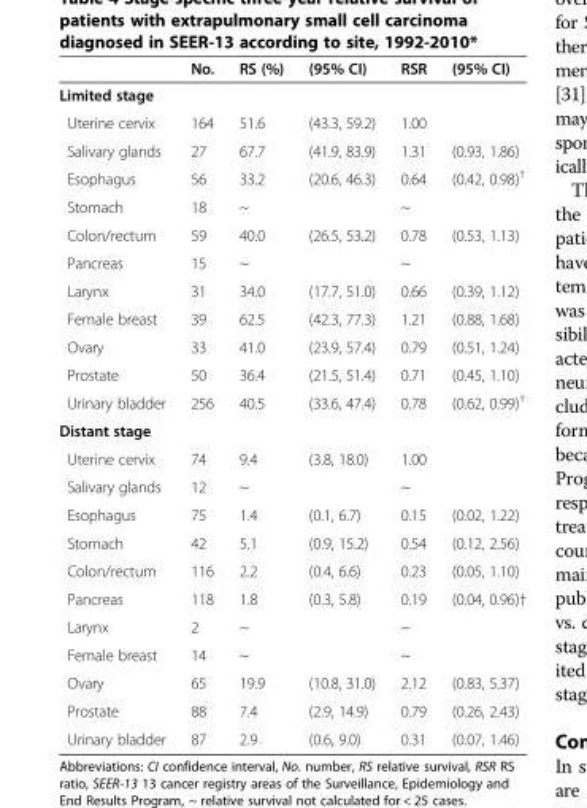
<table><thead><tr><td></td><td>No.</td><td>RS (%)</td><td>(95% CI)</td><td>RSR</td><td>(95% CI)</td></tr></thead><tbody><tr><td colspan="6">Limited stage</td></tr><tr><td>Uterine cervix</td><td>164</td><td>51.6</td><td>(43.3, 59.2)</td><td>1.00</td><td></td></tr><tr><td>Salivary glands</td><td>27</td><td>67.7</td><td>(41.9, 83.9)</td><td>1.31</td><td>(0.93, 1.86)</td></tr><tr><td>Esophagus</td><td>56</td><td>33.2</td><td>(20.6, 46.3)</td><td>0.64</td><td>(0.42, 0.98)<sup>†</sup></td></tr><tr><td>Stomach</td><td>18</td><td>~</td><td></td><td>~</td><td></td></tr><tr><td>Colon/rectum</td><td>59</td><td>40.0</td><td>(26.5, 53.2)</td><td>0.78</td><td>(0.53, 1.13)</td></tr><tr><td>Pancreas</td><td>15</td><td>~</td><td></td><td>~</td><td></td></tr><tr><td>Larynx</td><td>31</td><td>34.0</td><td>(17.7, 51.0)</td><td>0.66</td><td>(0.39, 1.12)</td></tr><tr><td>Female breast</td><td>39</td><td>62.5</td><td>(42.3, 77.3)</td><td>1.21</td><td>(0.88, 1.68)</td></tr><tr><td>Ovary</td><td>33</td><td>41.0</td><td>(23.9, 57.4)</td><td>0.79</td><td>(0.51, 1.24)</td></tr><tr><td>Prostate</td><td>50</td><td>36.4</td><td>(21.5, 51.4)</td><td>0.71</td><td>(0.45, 1.10)</td></tr><tr><td>Urinary bladder</td><td>256</td><td>40.5</td><td>(33.6, 47.4)</td><td>0.78</td><td>(0.62, 0.99)<sup>†</sup></td></tr><tr><td colspan="6">Distant stage</td></tr><tr><td>Uterine cervix</td><td>74</td><td>9.4</td><td>(3.8, 18.0)</td><td>1.00</td><td></td></tr><tr><td>Salivary glands</td><td>12</td><td>~</td><td></td><td>~</td><td></td></tr><tr><td>Esophagus</td><td>75</td><td>1.4</td><td>(0.1, 6.7)</td><td>0.15</td><td>(0.02, 1.22)</td></tr><tr><td>Stomach</td><td>42</td><td>5.1</td><td>(0.9, 15.2)</td><td>0.54</td><td>(0.12, 2.56)</td></tr><tr><td>Colon/rectum</td><td>116</td><td>2.2</td><td>(0.4, 6.6)</td><td>0.23</td><td>(0.05, 1.10)</td></tr><tr><td>Pancreas</td><td>118</td><td>1.8</td><td>(0.3, 5.8)</td><td>0.19</td><td>(0.04, 0.96)†</td></tr><tr><td>Larynx</td><td>2</td><td>~</td><td></td><td>~</td><td></td></tr><tr><td>Female breast</td><td>14</td><td>~</td><td></td><td>~</td><td></td></tr><tr><td>Ovary</td><td>65</td><td>19.9</td><td>(10.8, 31.0)</td><td>2.12</td><td>(0.83, 5.37)</td></tr><tr><td>Prostate</td><td>88</td><td>7.4</td><td>(2.9, 14.9)</td><td>0.79</td><td>(0.26, 2.43)</td></tr><tr><td>Urinary bladder</td><td>87</td><td>2.9</td><td>(0.6, 9.0)</td><td>0.31</td><td>(0.07, 1.46)</td></tr></tbody></table>